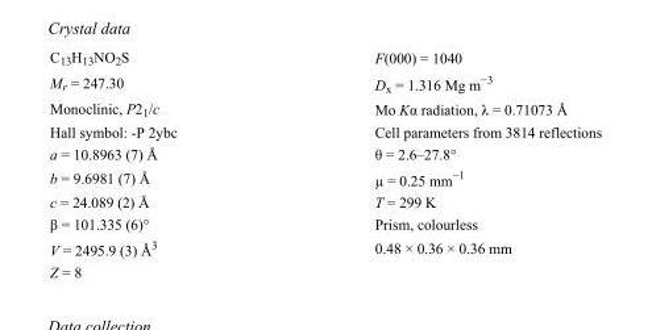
<table><tbody><tr><td>C<sub>13</sub>H<sub>13</sub>NO<sub>2</sub>S</td><td>F(000) = 1040</td></tr><tr><td>M<sub>r</sub> = 247.30</td><td>D<sub>x</sub> = 1.316 Mg m<sup>−3</sup></td></tr><tr><td>Monoclinic, P2<sub>1</sub>/c</td><td>Mo Kα radiation, λ = 0.71073 Å</td></tr><tr><td>Hall symbol: -P 2ybc</td><td>Cell parameters from 3814 reflections</td></tr><tr><td>a = 10.8963 (7) Å</td><td>θ = 2.6–27.8°</td></tr><tr><td>b = 9.6981 (7) Å</td><td>µ = 0.25 mm<sup>−1</sup></td></tr><tr><td>c = 24.089 (2) Å</td><td>T = 299 K</td></tr><tr><td>β = 101.335 (6)°</td><td>Prism, colourless</td></tr><tr><td>V = 2495.9 (3) Å<sup>3</sup></td><td>0.48 × 0.36 × 0.36 mm</td></tr><tr><td>Z = 8</td><td></td></tr></tbody></table>